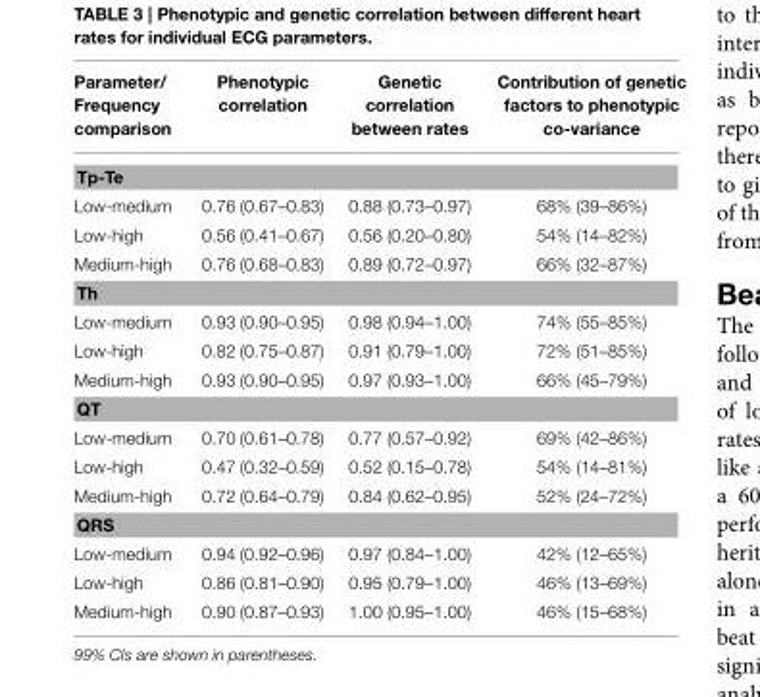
<table><thead><tr><td>Parameter/ Frequency comparison</td><td>Phenotypic correlation</td><td>Genetic correlation between rates</td><td>Contribution of genetic factors to phenotypic co-variance</td></tr></thead><tbody><tr><td colspan="4">Tp-Te</td></tr><tr><td>Low-medium</td><td>0.76 (0.67–0.83)</td><td>0.88 (0.73–0.97)</td><td>68% (39–86%)</td></tr><tr><td>Low-high</td><td>0.56 (0.41–0.67)</td><td>0.56 (0.20–0.80)</td><td>54% (14–82%)</td></tr><tr><td>Medium-high</td><td>0.76 (0.68–0.83)</td><td>0.89 (0.72–0.97)</td><td>66% (32–87%)</td></tr><tr><td colspan="4">Th</td></tr><tr><td>Low-medium</td><td>0.93 (0.90–0.95)</td><td>0.98 (0.94–1.00)</td><td>74% (55–85%)</td></tr><tr><td>Low-high</td><td>0.82 (0.75–0.87)</td><td>0.91 (0.79–1.00)</td><td>72% (51–85%)</td></tr><tr><td>Medium-high</td><td>0.93 (0.90–0.95)</td><td>0.97 (0.93–1.00)</td><td>66% (45–79%)</td></tr><tr><td colspan="4">QT</td></tr><tr><td>Low-medium</td><td>0.70 (0.61–0.78)</td><td>0.77 (0.57–0.92)</td><td>69% (42–86%)</td></tr><tr><td>Low-high</td><td>0.47 (0.32–0.59)</td><td>0.52 (0.15–0.78)</td><td>54% (14–81%)</td></tr><tr><td>Medium-high</td><td>0.72 (0.64–0.79)</td><td>0.84 (0.62–0.95)</td><td>52% (24–72%)</td></tr><tr><td colspan="4">QRS</td></tr><tr><td>Low-medium</td><td>0.94 (0.92–0.96)</td><td>0.97 (0.84–1.00)</td><td>42% (12–65%)</td></tr><tr><td>Low-high</td><td>0.86 (0.81–0.90)</td><td>0.95 (0.79–1.00)</td><td>46% (13–69%)</td></tr><tr><td>Medium-high</td><td>0.90 (0.87–0.93)</td><td>1.00 (0.95–1.00)</td><td>46% (15–68%)</td></tr></tbody></table>